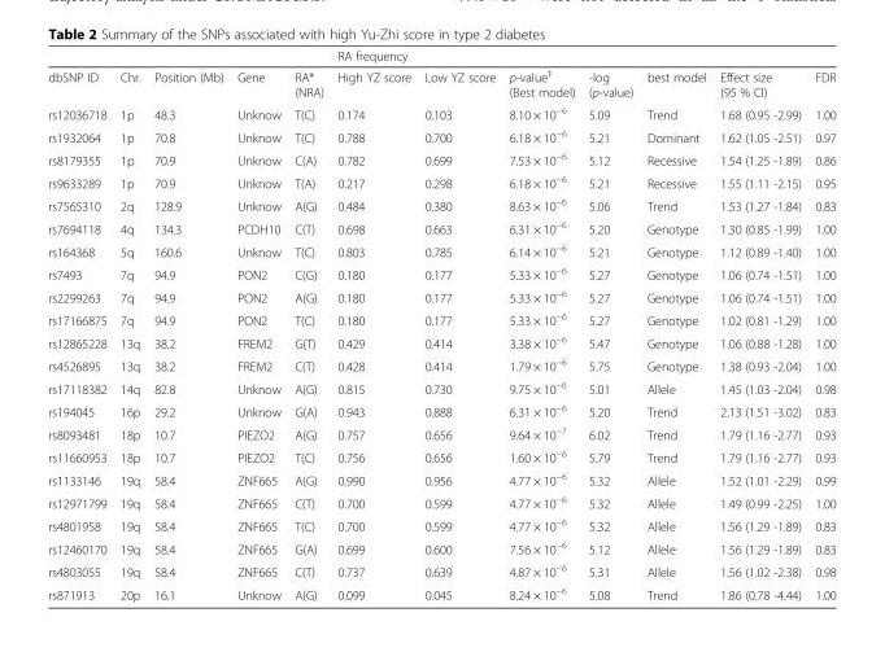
<table><thead><tr><td rowspan="2">dbSNP ID</td><td rowspan="2">Chr.</td><td rowspan="2">Position (Mb)</td><td rowspan="2">Gene</td><td rowspan="2">RA* (NRA)</td><td colspan="2">RA frequency</td><td rowspan="2">p-value<sup>‡</sup> (Best model)</td><td rowspan="2">-log (p-value)</td><td rowspan="2">best model</td><td rowspan="2">Effect size (95 % CI)</td><td rowspan="2">FDR</td></tr><tr><td>High YZ score</td><td>Low YZ score</td></tr></thead><tbody><tr><td>rs12036718</td><td>1p</td><td>48.3</td><td>Unknow</td><td>T(C)</td><td>0.174</td><td>0.103</td><td>8.10 × 10<sup>−6</sup></td><td>5.09</td><td>Trend</td><td>1.68 (0.95 -2.99)</td><td>1.00</td></tr><tr><td>rs1932064</td><td>1p</td><td>70.8</td><td>Unknow</td><td>T(C)</td><td>0.788</td><td>0.700</td><td>6.18 × 10<sup>−6</sup></td><td>5.21</td><td>Dominant</td><td>1.62 (1.05 -2.51)</td><td>0.97</td></tr><tr><td>rs8179355</td><td>1p</td><td>70.9</td><td>Unknow</td><td>C(A)</td><td>0.782</td><td>0.699</td><td>7.53 × 10<sup>−6</sup></td><td>5.12</td><td>Recessive</td><td>1.54 (1.25 -1.89)</td><td>0.86</td></tr><tr><td>rs9633289</td><td>1p</td><td>70.9</td><td>Unknow</td><td>T(A)</td><td>0.217</td><td>0.298</td><td>6.18 × 10<sup>−6</sup></td><td>5.21</td><td>Recessive</td><td>1.55 (1.11 -2.15)</td><td>0.95</td></tr><tr><td>rs7565310</td><td>2q</td><td>128.9</td><td>Unknow</td><td>A(G)</td><td>0.484</td><td>0.380</td><td>8.63 × 10<sup>−6</sup></td><td>5.06</td><td>Trend</td><td>1.53 (1.27 -1.84)</td><td>0.83</td></tr><tr><td>rs7694118</td><td>4q</td><td>134.3</td><td>PCDH10</td><td>C(T)</td><td>0.698</td><td>0.663</td><td>6.31 × 10<sup>−6</sup></td><td>5.20</td><td>Genotype</td><td>1.30 (0.85 -1.99)</td><td>1.00</td></tr><tr><td>rs164368</td><td>5q</td><td>160.6</td><td>Unknow</td><td>T(C)</td><td>0.803</td><td>0.785</td><td>6.14 × 10<sup>−6</sup></td><td>5.21</td><td>Genotype</td><td>1.12 (0.89 -1.40)</td><td>1.00</td></tr><tr><td>rs7493</td><td>7q</td><td>94.9</td><td>PON2</td><td>C(G)</td><td>0.180</td><td>0.177</td><td>5.33 × 10<sup>−6</sup></td><td>5.27</td><td>Genotype</td><td>1.06 (0.74 -1.51)</td><td>1.00</td></tr><tr><td>rs2299263</td><td>7q</td><td>94.9</td><td>PON2</td><td>A(G)</td><td>0.180</td><td>0.177</td><td>5.33 × 10<sup>−6</sup></td><td>5.27</td><td>Genotype</td><td>1.06 (0.74 -1.51)</td><td>1.00</td></tr><tr><td>rs17166875</td><td>7q</td><td>94.9</td><td>PON2</td><td>T(C)</td><td>0.180</td><td>0.177</td><td>5.33 × 10<sup>−6</sup></td><td>5.27</td><td>Genotype</td><td>1.02 (0.81 -1.29)</td><td>1.00</td></tr><tr><td>rs12865228</td><td>13q</td><td>38.2</td><td>FREM2</td><td>G(T)</td><td>0.429</td><td>0.414</td><td>3.38 × 10<sup>−6</sup></td><td>5.47</td><td>Genotype</td><td>1.06 (0.88 -1.28)</td><td>1.00</td></tr><tr><td>rs4526895</td><td>13q</td><td>38.2</td><td>FREM2</td><td>C(T)</td><td>0.428</td><td>0.414</td><td>1.79 × 10<sup>−6</sup></td><td>5.75</td><td>Genotype</td><td>1.38 (0.93 -2.04)</td><td>1.00</td></tr><tr><td>rs17118382</td><td>14q</td><td>82.8</td><td>Unknow</td><td>A(G)</td><td>0.815</td><td>0.730</td><td>9.75 × 10<sup>−6</sup></td><td>5.01</td><td>Allele</td><td>1.45 (1.03 -2.04)</td><td>0.98</td></tr><tr><td>rs194045</td><td>16p</td><td>29.2</td><td>Unknow</td><td>G(A)</td><td>0.943</td><td>0.888</td><td>6.31 × 10<sup>−6</sup></td><td>5.20</td><td>Trend</td><td>2.13 (1.51 -3.02)</td><td>0.83</td></tr><tr><td>rs8093481</td><td>18p</td><td>10.7</td><td>PIEZO2</td><td>A(G)</td><td>0.757</td><td>0.656</td><td>9.64 × 10<sup>−7</sup></td><td>6.02</td><td>Trend</td><td>1.79 (1.16 -2.77)</td><td>0.93</td></tr><tr><td>rs11660953</td><td>18p</td><td>10.7</td><td>PIEZO2</td><td>T(C)</td><td>0.756</td><td>0.656</td><td>1.60 × 10<sup>−6</sup></td><td>5.79</td><td>Trend</td><td>1.79 (1.16 -2.77)</td><td>0.93</td></tr><tr><td>rs1133146</td><td>19q</td><td>58.4</td><td>ZNF665</td><td>A(G)</td><td>0.990</td><td>0.956</td><td>4.77 × 10<sup>−6</sup></td><td>5.32</td><td>Allele</td><td>1.52 (1.01 -2.29)</td><td>0.99</td></tr><tr><td>rs12971799</td><td>19q</td><td>58.4</td><td>ZNF665</td><td>C(T)</td><td>0.700</td><td>0.599</td><td>4.77 × 10<sup>−6</sup></td><td>5.32</td><td>Allele</td><td>1.49 (0.99 -2.25)</td><td>1.00</td></tr><tr><td>rs4801958</td><td>19q</td><td>58.4</td><td>ZNF665</td><td>T(C)</td><td>0.700</td><td>0.599</td><td>4.77 × 10<sup>−6</sup></td><td>5.32</td><td>Allele</td><td>1.56 (1.29 -1.89)</td><td>0.83</td></tr><tr><td>rs12460170</td><td>19q</td><td>58.4</td><td>ZNF665</td><td>G(A)</td><td>0.699</td><td>0.600</td><td>7.56 × 10<sup>−6</sup></td><td>5.12</td><td>Allele</td><td>1.56 (1.29 -1.89)</td><td>0.83</td></tr><tr><td>rs4803055</td><td>19q</td><td>58.4</td><td>ZNF665</td><td>C(T)</td><td>0.737</td><td>0.639</td><td>4.87 × 10<sup>−6</sup></td><td>5.31</td><td>Allele</td><td>1.56 (1.02 -2.38)</td><td>0.98</td></tr><tr><td>rs871913</td><td>20p</td><td>16.1</td><td>Unknow</td><td>A(G)</td><td>0.099</td><td>0.045</td><td>8.24 × 10<sup>−6</sup></td><td>5.08</td><td>Trend</td><td>1.86 (0.78 -4.44)</td><td>1.00</td></tr></tbody></table>